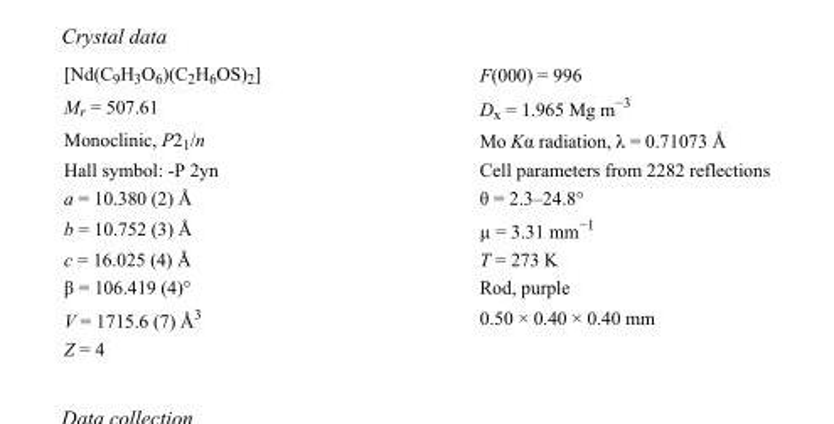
<table><tbody><tr><td>[Nd(C<sub>9</sub>H<sub>3</sub>O<sub>6</sub>)(C<sub>2</sub>H<sub>6</sub>OS)<sub>2</sub>]</td><td>F(000) = 996</td></tr><tr><td>M<sub>r</sub> = 507.61</td><td>D<sub>x</sub> = 1.965 Mg m<sup>−3</sup></td></tr><tr><td>Monoclinic, P2<sub>1</sub>/n</td><td>Mo Kα radiation, λ = 0.71073 Å</td></tr><tr><td>Hall symbol: -P 2yn</td><td>Cell parameters from 2282 reflections</td></tr><tr><td>a = 10.380 (2) Å</td><td>θ = 2.3–24.8°</td></tr><tr><td>b = 10.752 (3) Å</td><td>µ = 3.31 mm<sup>−1</sup></td></tr><tr><td>c = 16.025 (4) Å</td><td>T = 273 K</td></tr><tr><td>β = 106.419 (4)°</td><td>Rod, purple</td></tr><tr><td>V = 1715.6 (7) Å<sup>3</sup></td><td>0.50 × 0.40 × 0.40 mm</td></tr><tr><td>Z = 4</td><td></td></tr></tbody></table>